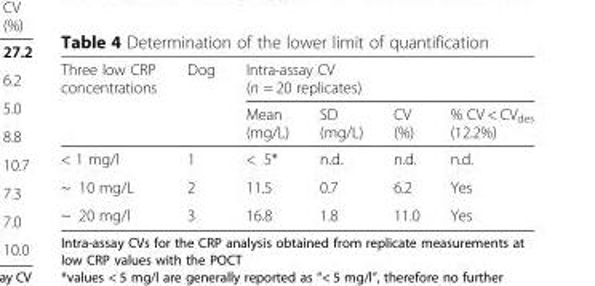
<table><thead><tr><td rowspan="2">Three low CRP concentrations</td><td rowspan="2">Dog</td><td colspan="4">Intra-assay CV (n = 20 replicates)</td></tr><tr><td>Mean (mg/L)</td><td>SD (mg/L)</td><td>CV (%)</td><td>% CV &lt; CV<sub>des</sub> (12.2%)</td></tr></thead><tbody><tr><td>&lt; 1 mg/l</td><td>1</td><td>&lt; 5*</td><td>n.d.</td><td>n.d.</td><td>n.d.</td></tr><tr><td>~ 10 mg/L</td><td>2</td><td>11.5</td><td>0.7</td><td>6.2</td><td>Yes</td></tr><tr><td>~ 20 mg/l</td><td>3</td><td>16.8</td><td>1.8</td><td>11.0</td><td>Yes</td></tr></tbody></table>